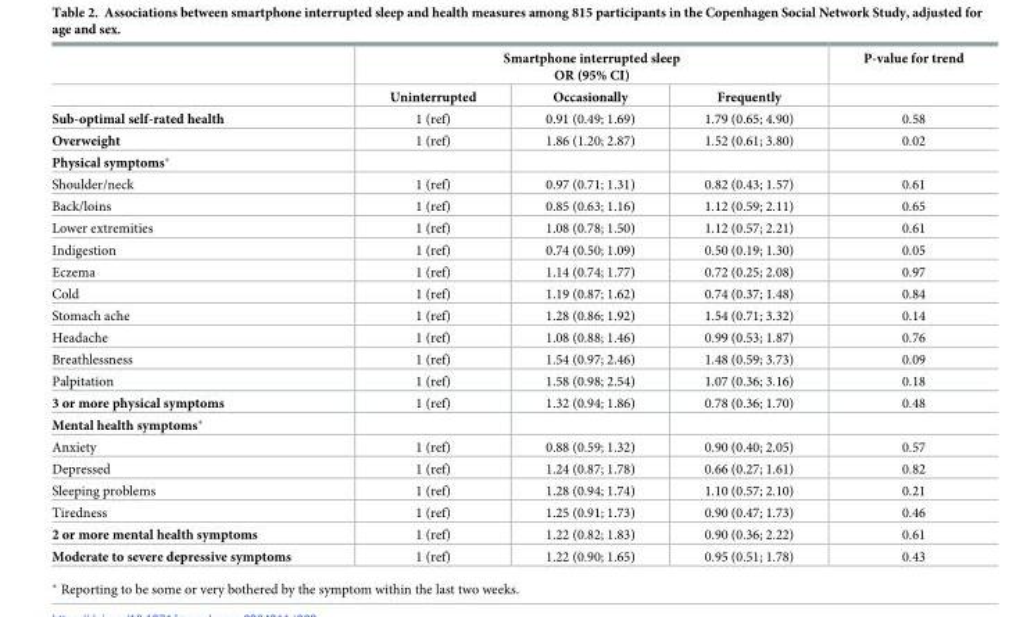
<table><thead><tr><td rowspan="2"></td><td colspan="3">Smartphone interrupted sleep OR (95% CI)</td><td rowspan="2">P-value for trend</td></tr><tr><td>Uninterrupted</td><td>Occasionally</td><td>Frequently</td></tr></thead><tbody><tr><td>Sub-optimal self-rated health</td><td>1 (ref)</td><td>0.91 (0.49; 1.69)</td><td>1.79 (0.65; 4.90)</td><td>0.58</td></tr><tr><td>Overweight</td><td>1 (ref)</td><td>1.86 (1.20; 2.87)</td><td>1.52 (0.61; 3.80)</td><td>0.02</td></tr><tr><td colspan="5">Physical symptoms*</td></tr><tr><td>Shoulder/neck</td><td>1 (ref)</td><td>0.97 (0.71; 1.31)</td><td>0.82 (0.43; 1.57)</td><td>0.61</td></tr><tr><td>Back/loins</td><td>1 (ref)</td><td>0.85 (0.63; 1.16)</td><td>1.12 (0.59; 2.11)</td><td>0.65</td></tr><tr><td>Lower extremities</td><td>1 (ref)</td><td>1.08 (0.78; 1.50)</td><td>1.12 (0.57; 2.21)</td><td>0.61</td></tr><tr><td>Indigestion</td><td>1 (ref)</td><td>0.74 (0.50; 1.09)</td><td>0.50 (0.19; 1.30)</td><td>0.05</td></tr><tr><td>Eczema</td><td>1 (ref)</td><td>1.14 (0.74; 1.77)</td><td>0.72 (0.25; 2.08)</td><td>0.97</td></tr><tr><td>Cold</td><td>1 (ref)</td><td>1.19 (0.87; 1.62)</td><td>0.74 (0.37; 1.48)</td><td>0.84</td></tr><tr><td>Stomach ache</td><td>1 (ref)</td><td>1.28 (0.86; 1.92)</td><td>1.54 (0.71; 3.32)</td><td>0.14</td></tr><tr><td>Headache</td><td>1 (ref)</td><td>1.08 (0.88; 1.46)</td><td>0.99 (0.53; 1.87)</td><td>0.76</td></tr><tr><td>Breathlessness</td><td>1 (ref)</td><td>1.54 (0.97; 2.46)</td><td>1.48 (0.59; 3.73)</td><td>0.09</td></tr><tr><td>Palpitation</td><td>1 (ref)</td><td>1.58 (0.98; 2.54)</td><td>1.07 (0.36; 3.16)</td><td>0.18</td></tr><tr><td>3 or more physical symptoms</td><td>1 (ref)</td><td>1.32 (0.94; 1.86)</td><td>0.78 (0.36; 1.70)</td><td>0.48</td></tr><tr><td colspan="5">Mental health symptoms*</td></tr><tr><td>Anxiety</td><td>1 (ref)</td><td>0.88 (0.59; 1.32)</td><td>0.90 (0.40; 2.05)</td><td>0.57</td></tr><tr><td>Depressed</td><td>1 (ref)</td><td>1.24 (0.87; 1.78)</td><td>0.66 (0.27; 1.61)</td><td>0.82</td></tr><tr><td>Sleeping problems</td><td>1 (ref)</td><td>1.28 (0.94; 1.74)</td><td>1.10 (0.57; 2.10)</td><td>0.21</td></tr><tr><td>Tiredness</td><td>1 (ref)</td><td>1.25 (0.91; 1.73)</td><td>0.90 (0.47; 1.73)</td><td>0.46</td></tr><tr><td>2 or more mental health symptoms</td><td>1 (ref)</td><td>1.22 (0.82; 1.83)</td><td>0.90 (0.36; 2.22)</td><td>0.61</td></tr><tr><td>Moderate to severe depressive symptoms</td><td>1 (ref)</td><td>1.22 (0.90; 1.65)</td><td>0.95 (0.51; 1.78)</td><td>0.43</td></tr></tbody></table>